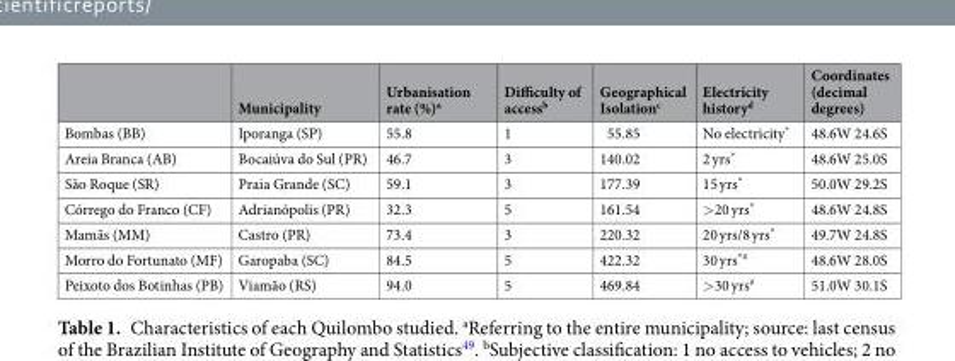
<table><thead><tr><td></td><td>Municipality</td><td>Urbanisation rate (%)<sup>a</sup></td><td>Difficulty of access<sup>b</sup></td><td>Geographical Isolation<sup>c</sup></td><td>Electricity history<sup>d</sup></td><td>Coordinates (decimal degrees)</td></tr></thead><tbody><tr><td>Bombas (BB)</td><td>Iporanga (SP)</td><td>55.8</td><td>1</td><td>55.85</td><td>No electricity*</td><td>48.6W 24.6S</td></tr><tr><td>Areia Branca (AB)</td><td>Bocaiúva do Sul (PR)</td><td>46.7</td><td>3</td><td>140.02</td><td>2 yrs*</td><td>48.6W 25.0S</td></tr><tr><td>São Roque (SR)</td><td>Praia Grande (SC)</td><td>59.1</td><td>3</td><td>177.39</td><td>15 yrs*</td><td>50.0W 29.2S</td></tr><tr><td>Córrego do Franco (CF)</td><td>Adrianópolis (PR)</td><td>32.3</td><td>5</td><td>161.54</td><td>&gt;20 yrs*</td><td>48.6W 24.8S</td></tr><tr><td>Mamãs (MM)</td><td>Castro (PR)</td><td>73.4</td><td>3</td><td>220.32</td><td>20 yrs/8 yrs*</td><td>49.7W 24.8S</td></tr><tr><td>Morro do Fortunato (MF)</td><td>Garopaba (SC)</td><td>84.5</td><td>5</td><td>422.32</td><td>30 yrs<sup>*#</sup></td><td>48.6W 28.0S</td></tr><tr><td>Peixoto dos Botinhas (PB)</td><td>Viamão (RS)</td><td>94.0</td><td>5</td><td>469.84</td><td>&gt;30 yrs<sup>#</sup></td><td>51.0W 30.1S</td></tr></tbody></table>